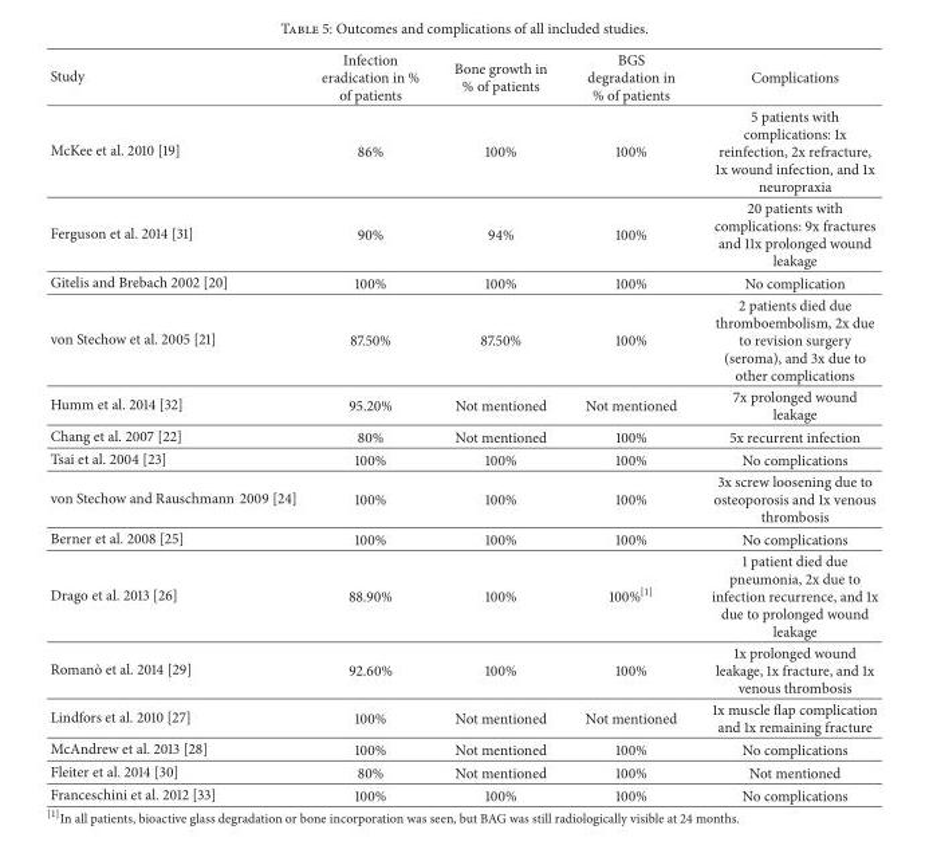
<table><thead><tr><td>Study</td><td>Infection eradication in % of patients</td><td>Bone growth in % of patients</td><td>BGS degradation in % of patients</td><td>Complications</td></tr></thead><tbody><tr><td>McKee et al. 2010 [19]</td><td>86%</td><td>100%</td><td>100%</td><td>5 patients with complications: 1x reinfection, 2x refracture, 1x wound infection, and 1x neuropraxia</td></tr><tr><td>Ferguson et al. 2014 [31]</td><td>90%</td><td>94%</td><td>100%</td><td>20 patients with complications: 9x fractures and 11x prolonged wound leakage</td></tr><tr><td>Gitelis and Brebach 2002 [20]</td><td>100%</td><td>100%</td><td>100%</td><td>No complication</td></tr><tr><td>von Stechow et al. 2005 [21]</td><td>87.50%</td><td>87.50%</td><td>100%</td><td>2 patients died due thromboembolism, 2x due to revision surgery (seroma), and 3x due to other complications</td></tr><tr><td>Humm et al. 2014 [32]</td><td>95.20%</td><td>Not mentioned</td><td>Not mentioned</td><td>7x prolonged wound leakage</td></tr><tr><td>Chang et al. 2007 [22]</td><td>80%</td><td>Not mentioned</td><td>100%</td><td>5x recurrent infection</td></tr><tr><td>Tsai et al. 2004 [23]</td><td>100%</td><td>100%</td><td>100%</td><td>No complications</td></tr><tr><td>von Stechow and Rauschmann 2009 [24]</td><td>100%</td><td>100%</td><td>100%</td><td>3x screw loosening due to osteoporosis and 1x venous thrombosis</td></tr><tr><td>Berner et al. 2008 [25]</td><td>100%</td><td>100%</td><td>100%</td><td>No complications</td></tr><tr><td>Drago et al. 2013 [26]</td><td>88.90%</td><td>100%</td><td>100%[1]</td><td>1 patient died due pneumonia, 2x due to infection recurrence, and 1x due to prolonged wound leakage</td></tr><tr><td>Roman`o et al. 2014 [29]</td><td>92.60%</td><td>100%</td><td>100%</td><td>1x prolonged wound leakage, 1x fracture, and 1x venous thrombosis</td></tr><tr><td>Lindfors et al. 2010 [27]</td><td>100%</td><td>Not mentioned</td><td>Not mentioned</td><td>1x muscle flap complication and 1x remaining fracture</td></tr><tr><td>McAndrew et al. 2013 [28]</td><td>100%</td><td>Not mentioned</td><td>100%</td><td>No complications</td></tr><tr><td>Fleiter et al. 2014 [30]</td><td>80%</td><td>Not mentioned</td><td>100%</td><td>Not mentioned</td></tr><tr><td>Franceschini et al. 2012 [33]</td><td>100%</td><td>100%</td><td>100%</td><td>No complications</td></tr></tbody></table>